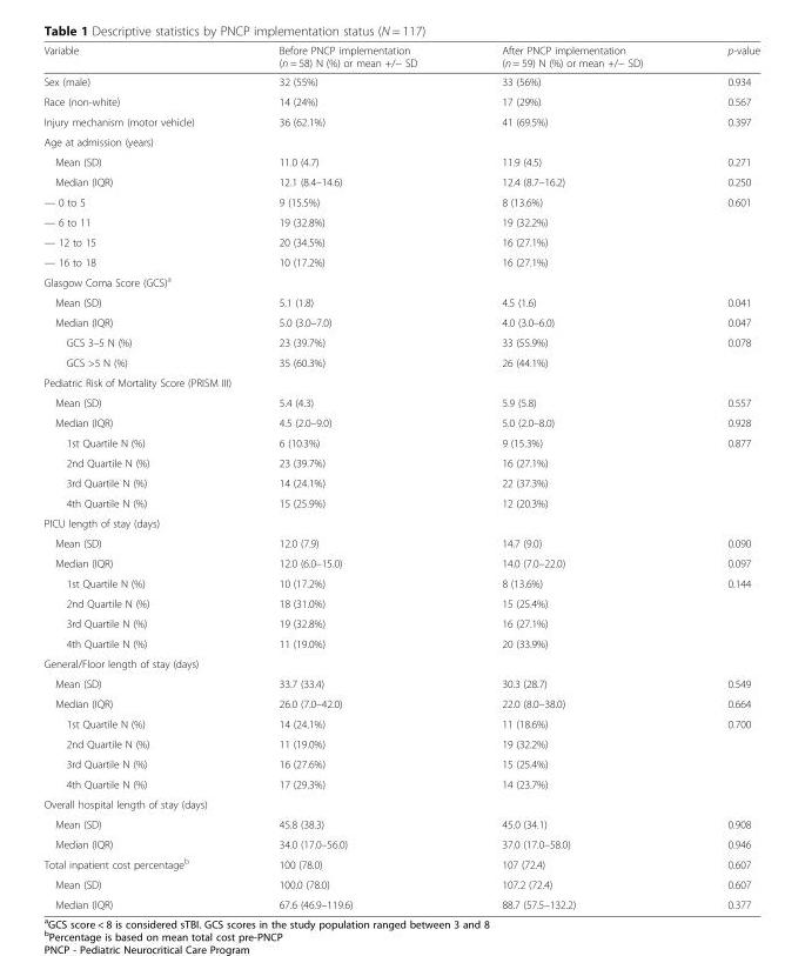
<table><thead><tr><td>Variable</td><td>Before PNCP implementation (n = 58) N (%) or mean +/− SD</td><td>After PNCP implementation (n = 59) N (%) or mean +/− SD)</td><td>p-value</td></tr></thead><tbody><tr><td>Sex (male)</td><td>32 (55%)</td><td>33 (56%)</td><td>0.934</td></tr><tr><td>Race (non-white)</td><td>14 (24%)</td><td>17 (29%)</td><td>0.567</td></tr><tr><td>Injury mechanism (motor vehicle)</td><td>36 (62.1%)</td><td>41 (69.5%)</td><td>0.397</td></tr><tr><td colspan="4">Age at admission (years)</td></tr><tr><td>Mean (SD)</td><td>11.0 (4.7)</td><td>11.9 (4.5)</td><td>0.271</td></tr><tr><td>Median (IQR)</td><td>12.1 (8.4–14.6)</td><td>12.4 (8.7–16.2)</td><td>0.250</td></tr><tr><td>— 0 to 5</td><td>9 (15.5%)</td><td>8 (13.6%)</td><td>0.601</td></tr><tr><td>— 6 to 11</td><td>19 (32.8%)</td><td>19 (32.2%)</td><td></td></tr><tr><td>— 12 to 15</td><td>20 (34.5%)</td><td>16 (27.1%)</td><td></td></tr><tr><td>— 16 to 18</td><td>10 (17.2%)</td><td>16 (27.1%)</td><td></td></tr><tr><td colspan="4">Glasgow Coma Score (GCS)<sup>a</sup></td></tr><tr><td>Mean (SD)</td><td>5.1 (1.8)</td><td>4.5 (1.6)</td><td>0.041</td></tr><tr><td>Median (IQR)</td><td>5.0 (3.0–7.0)</td><td>4.0 (3.0–6.0)</td><td>0.047</td></tr><tr><td>GCS 3–5 N (%)</td><td>23 (39.7%)</td><td>33 (55.9%)</td><td>0.078</td></tr><tr><td>GCS &gt;5 N (%)</td><td>35 (60.3%)</td><td>26 (44.1%)</td><td></td></tr><tr><td colspan="4">Pediatric Risk of Mortality Score (PRISM III)</td></tr><tr><td>Mean (SD)</td><td>5.4 (4.3)</td><td>5.9 (5.8)</td><td>0.557</td></tr><tr><td>Median (IQR)</td><td>4.5 (2.0–9.0)</td><td>5.0 (2.0–8.0)</td><td>0.928</td></tr><tr><td>1st Quartile N (%)</td><td>6 (10.3%)</td><td>9 (15.3%)</td><td>0.877</td></tr><tr><td>2nd Quartile N (%)</td><td>23 (39.7%)</td><td>16 (27.1%)</td><td></td></tr><tr><td>3rd Quartile N (%)</td><td>14 (24.1%)</td><td>22 (37.3%)</td><td></td></tr><tr><td>4th Quartile N (%)</td><td>15 (25.9%)</td><td>12 (20.3%)</td><td></td></tr><tr><td colspan="4">PICU length of stay (days)</td></tr><tr><td>Mean (SD)</td><td>12.0 (7.9)</td><td>14.7 (9.0)</td><td>0.090</td></tr><tr><td>Median (IQR)</td><td>12.0 (6.0–15.0)</td><td>14.0 (7.0–22.0)</td><td>0.097</td></tr><tr><td>1st Quartile N (%)</td><td>10 (17.2%)</td><td>8 (13.6%)</td><td>0.144</td></tr><tr><td>2nd Quartile N (%)</td><td>18 (31.0%)</td><td>15 (25.4%)</td><td></td></tr><tr><td>3rd Quartile N (%)</td><td>19 (32.8%)</td><td>16 (27.1%)</td><td></td></tr><tr><td>4th Quartile N (%)</td><td>11 (19.0%)</td><td>20 (33.9%)</td><td></td></tr><tr><td colspan="4">General/Floor length of stay (days)</td></tr><tr><td>Mean (SD)</td><td>33.7 (33.4)</td><td>30.3 (28.7)</td><td>0.549</td></tr><tr><td>Median (IQR)</td><td>26.0 (7.0–42.0)</td><td>22.0 (8.0–38.0)</td><td>0.664</td></tr><tr><td>1st Quartile N (%)</td><td>14 (24.1%)</td><td>11 (18.6%)</td><td>0.700</td></tr><tr><td>2nd Quartile N (%)</td><td>11 (19.0%)</td><td>19 (32.2%)</td><td></td></tr><tr><td>3rd Quartile N (%)</td><td>16 (27.6%)</td><td>15 (25.4%)</td><td></td></tr><tr><td>4th Quartile N (%)</td><td>17 (29.3%)</td><td>14 (23.7%)</td><td></td></tr><tr><td colspan="4">Overall hospital length of stay (days)</td></tr><tr><td>Mean (SD)</td><td>45.8 (38.3)</td><td>45.0 (34.1)</td><td>0.908</td></tr><tr><td>Median (IQR)</td><td>34.0 (17.0–56.0)</td><td>37.0 (17.0–58.0)</td><td>0.946</td></tr><tr><td>Total inpatient cost percentage<sup>b</sup></td><td>100 (78.0)</td><td>107 (72.4)</td><td>0.607</td></tr><tr><td>Mean (SD)</td><td>100.0 (78.0)</td><td>107.2 (72.4)</td><td>0.607</td></tr><tr><td>Median (IQR)</td><td>67.6 (46.9–119.6)</td><td>88.7 (57.5–132.2)</td><td>0.377</td></tr></tbody></table>